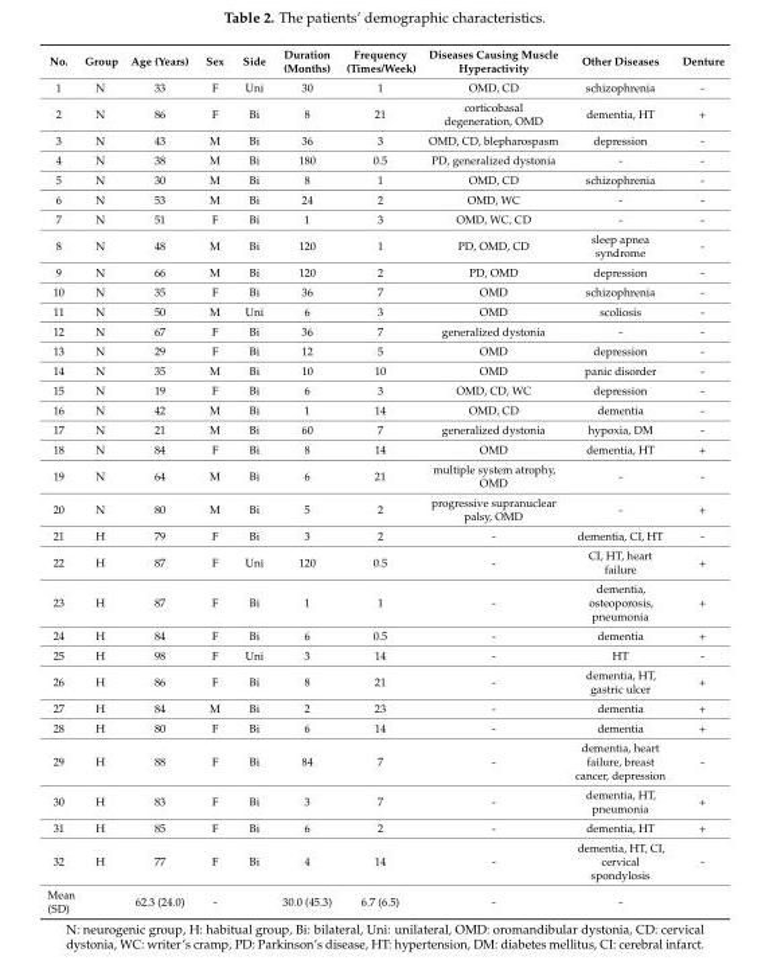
<table><thead><tr><td>No.</td><td>Group</td><td>Age (Years)</td><td>Sex</td><td>Side</td><td>Duration (Months)</td><td>Frequency (Times/Week)</td><td>Diseases Causing Muscle Hyperactivity</td><td>Other Diseases</td><td>Denture</td></tr></thead><tbody><tr><td>1</td><td>N</td><td>33</td><td>F</td><td>Uni</td><td>30</td><td>1</td><td>OMD, CD</td><td>schizophrenia</td><td>-</td></tr><tr><td>2</td><td>N</td><td>86</td><td>F</td><td>Bi</td><td>8</td><td>21</td><td>corticobasal degeneration, OMD</td><td>dementia, HT</td><td>+</td></tr><tr><td>3</td><td>N</td><td>43</td><td>M</td><td>Bi</td><td>36</td><td>3</td><td>OMD, CD, blepharospasm</td><td>depression</td><td>-</td></tr><tr><td>4</td><td>N</td><td>38</td><td>M</td><td>Bi</td><td>180</td><td>0.5</td><td>PD, generalized dystonia</td><td>-</td><td>-</td></tr><tr><td>5</td><td>N</td><td>30</td><td>M</td><td>Bi</td><td>8</td><td>1</td><td>OMD, CD</td><td>schizophrenia</td><td>-</td></tr><tr><td>6</td><td>N</td><td>53</td><td>M</td><td>Bi</td><td>24</td><td>2</td><td>OMD, WC</td><td>-</td><td>-</td></tr><tr><td>7</td><td>N</td><td>51</td><td>F</td><td>Bi</td><td>1</td><td>3</td><td>OMD, WC, CD</td><td>-</td><td>-</td></tr><tr><td>8</td><td>N</td><td>48</td><td>M</td><td>Bi</td><td>120</td><td>1</td><td>PD, OMD, CD</td><td>sleep apnea syndrome</td><td>-</td></tr><tr><td>9</td><td>N</td><td>66</td><td>M</td><td>Bi</td><td>120</td><td>2</td><td>PD, OMD</td><td>depression</td><td>-</td></tr><tr><td>10</td><td>N</td><td>35</td><td>F</td><td>Bi</td><td>36</td><td>7</td><td>OMD</td><td>schizophrenia</td><td>-</td></tr><tr><td>11</td><td>N</td><td>50</td><td>M</td><td>Uni</td><td>6</td><td>3</td><td>OMD</td><td>scoliosis</td><td>-</td></tr><tr><td>12</td><td>N</td><td>67</td><td>F</td><td>Bi</td><td>36</td><td>7</td><td>generalized dystonia</td><td>-</td><td>-</td></tr><tr><td>13</td><td>N</td><td>29</td><td>F</td><td>Bi</td><td>12</td><td>5</td><td>OMD</td><td>depression</td><td>-</td></tr><tr><td>14</td><td>N</td><td>35</td><td>M</td><td>Bi</td><td>10</td><td>10</td><td>OMD</td><td>panic disorder</td><td>-</td></tr><tr><td>15</td><td>N</td><td>19</td><td>F</td><td>Bi</td><td>6</td><td>3</td><td>OMD, CD, WC</td><td>depression</td><td>-</td></tr><tr><td>16</td><td>N</td><td>42</td><td>M</td><td>Bi</td><td>1</td><td>14</td><td>OMD, CD</td><td>dementia</td><td>-</td></tr><tr><td>17</td><td>N</td><td>21</td><td>M</td><td>Bi</td><td>60</td><td>7</td><td>generalized dystonia</td><td>hypoxia, DM</td><td>-</td></tr><tr><td>18</td><td>N</td><td>84</td><td>F</td><td>Bi</td><td>8</td><td>14</td><td>OMD</td><td>dementia, HT</td><td>+</td></tr><tr><td>19</td><td>N</td><td>64</td><td>M</td><td>Bi</td><td>6</td><td>21</td><td>multiple system atrophy, OMD</td><td>-</td><td>-</td></tr><tr><td>20</td><td>N</td><td>80</td><td>M</td><td>Bi</td><td>5</td><td>2</td><td>progressive supranuclear palsy, OMD</td><td>-</td><td>+</td></tr><tr><td>21</td><td>H</td><td>79</td><td>F</td><td>Bi</td><td>3</td><td>2</td><td>-</td><td>dementia, CI, HT</td><td>-</td></tr><tr><td>22</td><td>H</td><td>87</td><td>F</td><td>Uni</td><td>120</td><td>0.5</td><td>-</td><td>CI, HT, heart failure</td><td>+</td></tr><tr><td>23</td><td>H</td><td>87</td><td>F</td><td>Bi</td><td>1</td><td>1</td><td>-</td><td>dementia, osteoporosis, pneumonia</td><td>+</td></tr><tr><td>24</td><td>H</td><td>84</td><td>F</td><td>Bi</td><td>6</td><td>0.5</td><td>-</td><td>dementia</td><td>+</td></tr><tr><td>25</td><td>H</td><td>98</td><td>F</td><td>Uni</td><td>3</td><td>14</td><td>-</td><td>HT</td><td>-</td></tr><tr><td>26</td><td>H</td><td>86</td><td>F</td><td>Bi</td><td>8</td><td>21</td><td>-</td><td>dementia, HT, gastric ulcer</td><td>+</td></tr><tr><td>27</td><td>H</td><td>84</td><td>M</td><td>Bi</td><td>2</td><td>23</td><td>-</td><td>dementia</td><td>+</td></tr><tr><td>28</td><td>H</td><td>80</td><td>F</td><td>Bi</td><td>6</td><td>14</td><td>-</td><td>dementia</td><td>+</td></tr><tr><td>29</td><td>H</td><td>88</td><td>F</td><td>Bi</td><td>84</td><td>7</td><td>-</td><td>dementia, heart failure, breast cancer, depression</td><td>-</td></tr><tr><td>30</td><td>H</td><td>83</td><td>F</td><td>Bi</td><td>3</td><td>7</td><td>-</td><td>dementia, HT, pneumonia</td><td>+</td></tr><tr><td>31</td><td>H</td><td>85</td><td>F</td><td>Bi</td><td>6</td><td>2</td><td>-</td><td>dementia, HT</td><td>+</td></tr><tr><td>32</td><td>H</td><td>77</td><td>F</td><td>Bi</td><td>4</td><td>14</td><td>-</td><td>dementia, HT, CI, cervical spondylosis</td><td>-</td></tr><tr><td>Mean (SD)</td><td></td><td>62.3 (24.0)</td><td>-</td><td></td><td>30.0 (45.3)</td><td>6.7 (6.5)</td><td>-</td><td>-</td><td></td></tr></tbody></table>